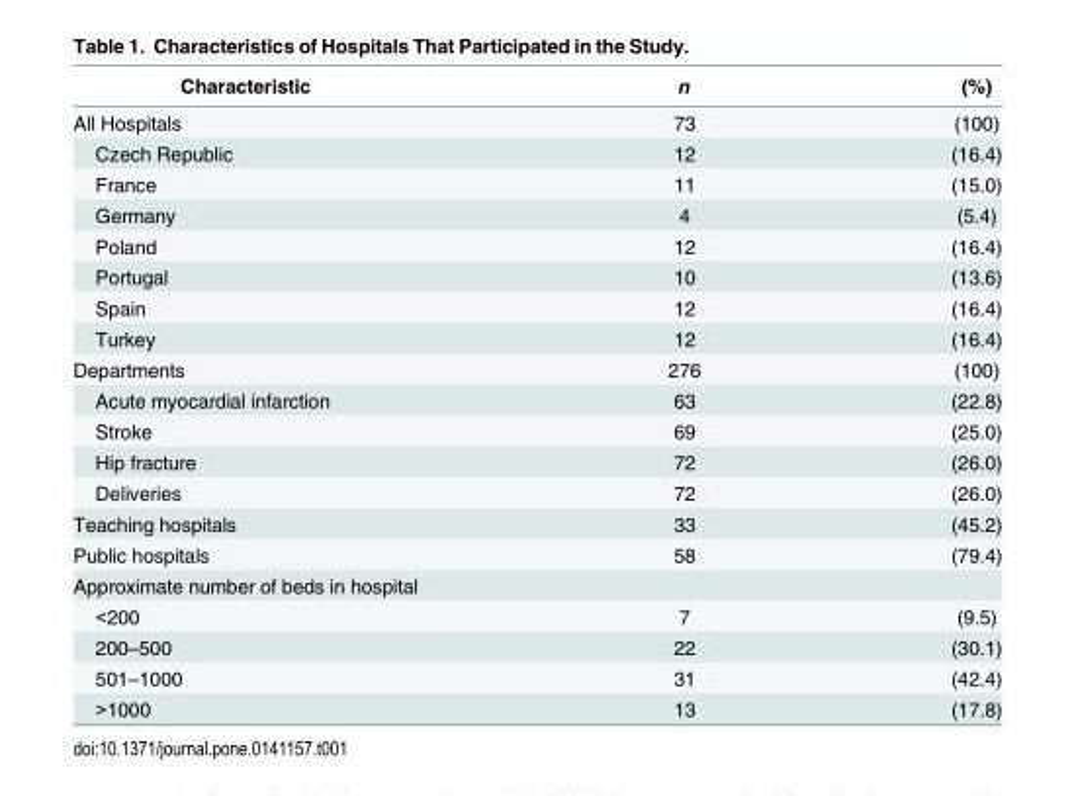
<table><thead><tr><td>Characteristic</td><td>n</td><td>(%)</td></tr></thead><tbody><tr><td>All Hospitals</td><td>73</td><td>(100)</td></tr><tr><td>Czech Republic</td><td>12</td><td>(16.4)</td></tr><tr><td>France</td><td>11</td><td>(15.0)</td></tr><tr><td>Germany</td><td>4</td><td>(5.4)</td></tr><tr><td>Poland</td><td>12</td><td>(16.4)</td></tr><tr><td>Portugal</td><td>10</td><td>(13.6)</td></tr><tr><td>Spain</td><td>12</td><td>(16.4)</td></tr><tr><td>Turkey</td><td>12</td><td>(16.4)</td></tr><tr><td>Departments</td><td>276</td><td>(100)</td></tr><tr><td>Acute myocardial infarction</td><td>63</td><td>(22.8)</td></tr><tr><td>Stroke</td><td>69</td><td>(25.0)</td></tr><tr><td>Hip fracture</td><td>72</td><td>(26.0)</td></tr><tr><td>Deliveries</td><td>72</td><td>(26.0)</td></tr><tr><td>Teaching hospitals</td><td>33</td><td>(45.2)</td></tr><tr><td>Public hospitals</td><td>58</td><td>(79.4)</td></tr><tr><td colspan="3">Approximate number of beds in hospital</td></tr><tr><td>&lt;200</td><td>7</td><td>(9.5)</td></tr><tr><td>200–500</td><td>22</td><td>(30.1)</td></tr><tr><td>501–1000</td><td>31</td><td>(42.4)</td></tr><tr><td>&gt;1000</td><td>13</td><td>(17.8)</td></tr></tbody></table>